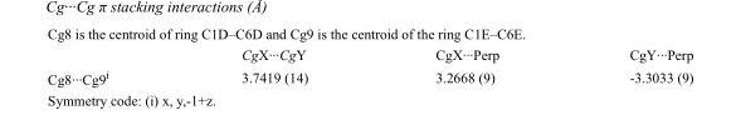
<table><thead><tr><td></td><td>CgX···CgY</td><td>CgX···Perp</td><td>CgY···Perp</td></tr></thead><tbody><tr><td>Cg8···Cg9<sup>i</sup></td><td>3.7419 (14)</td><td>3.2668 (9)</td><td>-3.3033 (9)</td></tr></tbody></table>